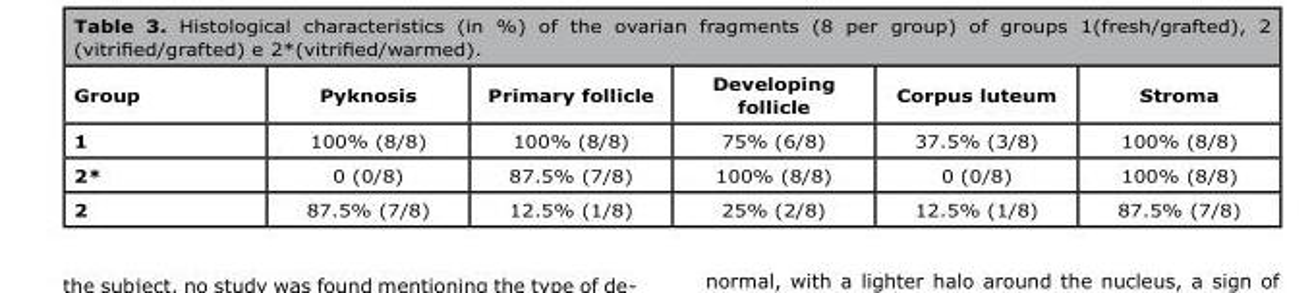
<table><thead><tr><td>Group</td><td>Pyknosis</td><td>Primary follicle</td><td>Developing follicle</td><td>Corpus luteum</td><td>Stroma</td></tr></thead><tbody><tr><td>1</td><td>100% (8/8)</td><td>100% (8/8)</td><td>75% (6/8)</td><td>37.5% (3/8)</td><td>100% (8/8)</td></tr><tr><td>2*</td><td>0 (0/8)</td><td>87.5% (7/8)</td><td>100% (8/8)</td><td>0 (0/8)</td><td>100% (8/8)</td></tr><tr><td>2</td><td>87.5% (7/8)</td><td>12.5% (1/8)</td><td>25% (2/8)</td><td>12.5% (1/8)</td><td>87.5% (7/8)</td></tr></tbody></table>